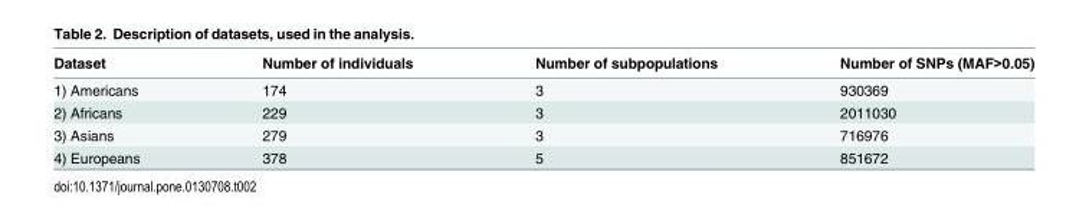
<table><thead><tr><td>Dataset</td><td>Number of individuals</td><td>Number of subpopulations</td><td>Number of SNPs (MAF&gt;0.05)</td></tr></thead><tbody><tr><td>1) Americans</td><td>174</td><td>3</td><td>930369</td></tr><tr><td>2) Africans</td><td>229</td><td>3</td><td>2011030</td></tr><tr><td>3) Asians</td><td>279</td><td>3</td><td>716976</td></tr><tr><td>4) Europeans</td><td>378</td><td>5</td><td>851672</td></tr></tbody></table>